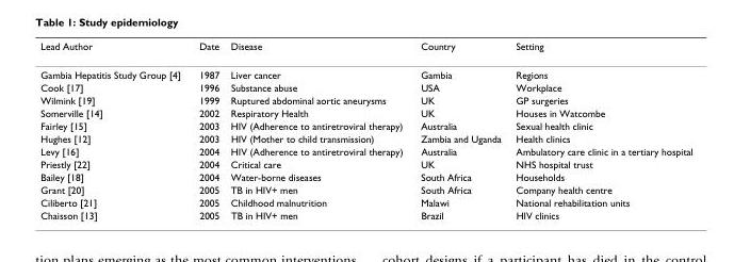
<table><thead><tr><td>Lead Author</td><td>Date</td><td>Disease</td><td>Country</td><td>Setting</td></tr></thead><tbody><tr><td>Gambia Hepatitis Study Group [4]</td><td>1987</td><td>Liver cancer</td><td>Gambia</td><td>Regions</td></tr><tr><td>Cook [17]</td><td>1996</td><td>Substance abuse</td><td>USA</td><td>Workplace</td></tr><tr><td>Wilmink [19]</td><td>1999</td><td>Ruptured abdominal aortic aneurysms</td><td>UK</td><td>GP surgeries</td></tr><tr><td>Somerville [14]</td><td>2002</td><td>Respiratory Health</td><td>UK</td><td>Houses in Watcombe</td></tr><tr><td>Fairley [15]</td><td>2003</td><td>HIV (Adherence to antiretroviral therapy)</td><td>Australia</td><td>Sexual health clinic</td></tr><tr><td>Hughes [12]</td><td>2003</td><td>HIV (Mother to child transmission)</td><td>Zambia and Uganda</td><td>Health clinics</td></tr><tr><td>Levy [16]</td><td>2004</td><td>HIV (Adherence to antiretroviral therapy)</td><td>Australia</td><td>Ambulatory care clinic in a tertiary hospital</td></tr><tr><td>Priestly [22]</td><td>2004</td><td>Critical care</td><td>UK</td><td>NHS hospital trust</td></tr><tr><td>Bailey [18]</td><td>2004</td><td>Water-borne diseases</td><td>South Africa</td><td>Households</td></tr><tr><td>Grant [20]</td><td>2005</td><td>TB in HIV+ men</td><td>South Africa</td><td>Company health centre</td></tr><tr><td>Ciliberto [21]</td><td>2005</td><td>Childhood malnutrition</td><td>Malawi</td><td>National rehabilitation units</td></tr><tr><td>Chaisson [13]</td><td>2005</td><td>TB in HIV+ men</td><td>Brazil</td><td>HIV clinics</td></tr></tbody></table>